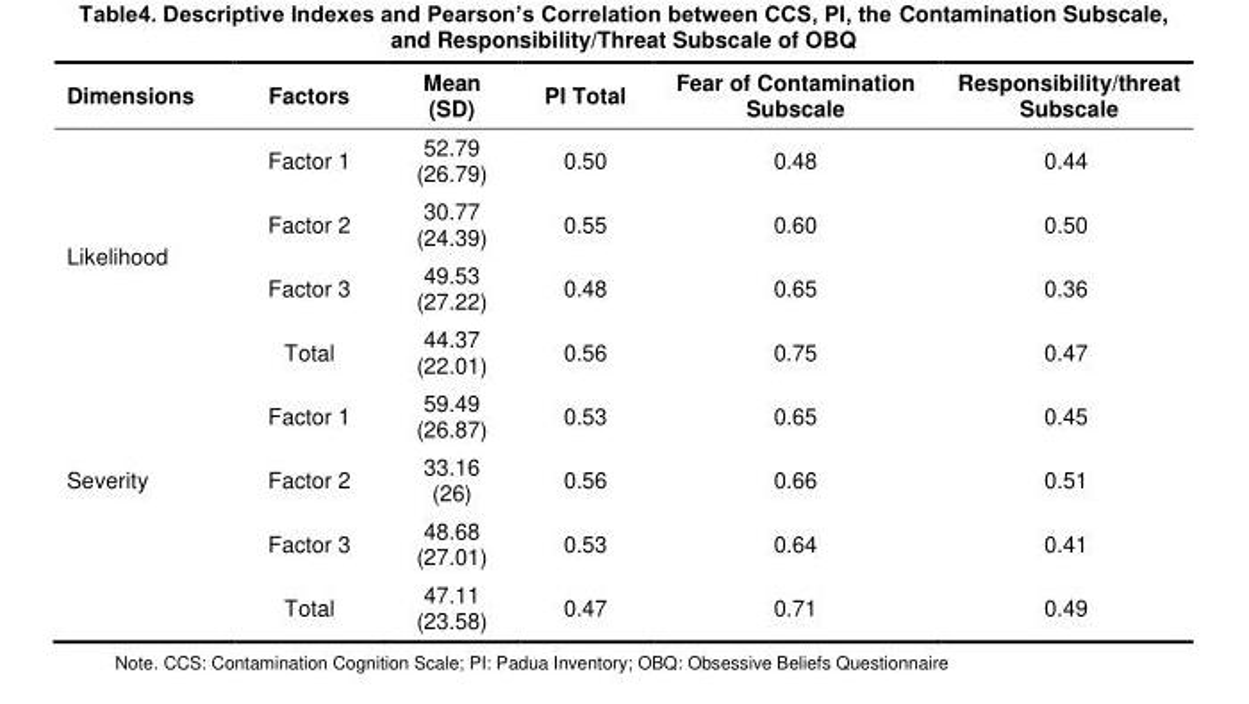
<table><thead><tr><td>Dimensions</td><td>Factors</td><td>Mean (SD)</td><td>PI Total</td><td>Fear of Contamination Subscale</td><td>Responsibility/threat Subscale</td></tr></thead><tbody><tr><td rowspan="4">Likelihood</td><td>Factor 1</td><td>52.79 (26.79)</td><td>0.50</td><td>0.48</td><td>0.44</td></tr><tr><td>Factor 2</td><td>30.77 (24.39)</td><td>0.55</td><td>0.60</td><td>0.50</td></tr><tr><td>Factor 3</td><td>49.53 (27.22)</td><td>0.48</td><td>0.65</td><td>0.36</td></tr><tr><td>Total</td><td>44.37 (22.01)</td><td>0.56</td><td>0.75</td><td>0.47</td></tr><tr><td rowspan="4">Severity</td><td>Factor 1</td><td>59.49 (26.87)</td><td>0.53</td><td>0.65</td><td>0.45</td></tr><tr><td>Factor 2</td><td>33.16 (26)</td><td>0.56</td><td>0.66</td><td>0.51</td></tr><tr><td>Factor 3</td><td>48.68 (27.01)</td><td>0.53</td><td>0.64</td><td>0.41</td></tr><tr><td>Total</td><td>47.11 (23.58)</td><td>0.47</td><td>0.71</td><td>0.49</td></tr></tbody></table>